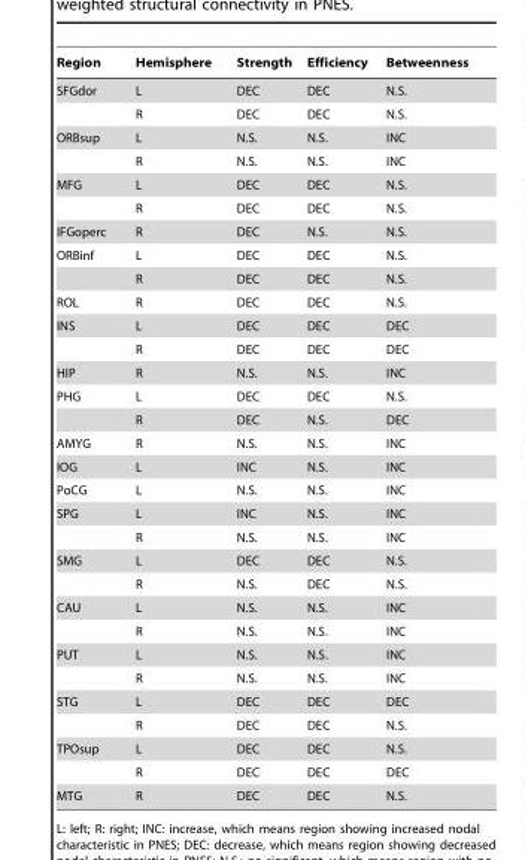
<table><thead><tr><td>Region</td><td>Hemisphere</td><td>Strength</td><td>Efficiency</td><td>Betweenness</td></tr></thead><tbody><tr><td rowspan="2">SFGdor</td><td>L</td><td>DEC</td><td>DEC</td><td>N.S.</td></tr><tr><td>R</td><td>DEC</td><td>DEC</td><td>N.S.</td></tr><tr><td rowspan="2">ORBsup</td><td>L</td><td>N.S.</td><td>N.S.</td><td>INC</td></tr><tr><td>R</td><td>N.S.</td><td>N.S.</td><td>INC</td></tr><tr><td rowspan="2">MFG</td><td>L</td><td>DEC</td><td>DEC</td><td>N.S.</td></tr><tr><td>R</td><td>DEC</td><td>DEC</td><td>N.S.</td></tr><tr><td>IFGoperc</td><td>R</td><td>DEC</td><td>N.S.</td><td>N.S.</td></tr><tr><td rowspan="2">ORBinf</td><td>L</td><td>DEC</td><td>DEC</td><td>N.S.</td></tr><tr><td>R</td><td>DEC</td><td>DEC</td><td>N.S.</td></tr><tr><td>ROL</td><td>R</td><td>DEC</td><td>DEC</td><td>N.S.</td></tr><tr><td rowspan="2">INS</td><td>L</td><td>DEC</td><td>DEC</td><td>DEC</td></tr><tr><td>R</td><td>DEC</td><td>DEC</td><td>DEC</td></tr><tr><td>HIP</td><td>R</td><td>N.S.</td><td>N.S.</td><td>INC</td></tr><tr><td rowspan="2">PHG</td><td>L</td><td>DEC</td><td>DEC</td><td>N.S.</td></tr><tr><td>R</td><td>DEC</td><td>N.S.</td><td>DEC</td></tr><tr><td>AMYG</td><td>R</td><td>N.S.</td><td>N.S.</td><td>INC</td></tr><tr><td>IOG</td><td>L</td><td>INC</td><td>N.S.</td><td>INC</td></tr><tr><td>PoCG</td><td>L</td><td>N.S.</td><td>N.S.</td><td>INC</td></tr><tr><td rowspan="2">SPG</td><td>L</td><td>INC</td><td>N.S.</td><td>INC</td></tr><tr><td>R</td><td>N.S.</td><td>N.S.</td><td>INC</td></tr><tr><td rowspan="2">SMG</td><td>L</td><td>DEC</td><td>DEC</td><td>N.S.</td></tr><tr><td>R</td><td>N.S.</td><td>DEC</td><td>N.S.</td></tr><tr><td rowspan="2">CAU</td><td>L</td><td>N.S.</td><td>N.S.</td><td>INC</td></tr><tr><td>R</td><td>N.S.</td><td>N.S.</td><td>INC</td></tr><tr><td rowspan="2">PUT</td><td>L</td><td>N.S.</td><td>N.S.</td><td>INC</td></tr><tr><td>R</td><td>N.S.</td><td>N.S.</td><td>INC</td></tr><tr><td rowspan="2">STG</td><td>L</td><td>DEC</td><td>DEC</td><td>DEC</td></tr><tr><td>R</td><td>DEC</td><td>DEC</td><td>N.S.</td></tr><tr><td rowspan="2">TPOsup</td><td>L</td><td>DEC</td><td>DEC</td><td>N.S.</td></tr><tr><td>R</td><td>DEC</td><td>DEC</td><td>DEC</td></tr><tr><td>MTG</td><td>R</td><td>DEC</td><td>DEC</td><td>N.S.</td></tr></tbody></table>